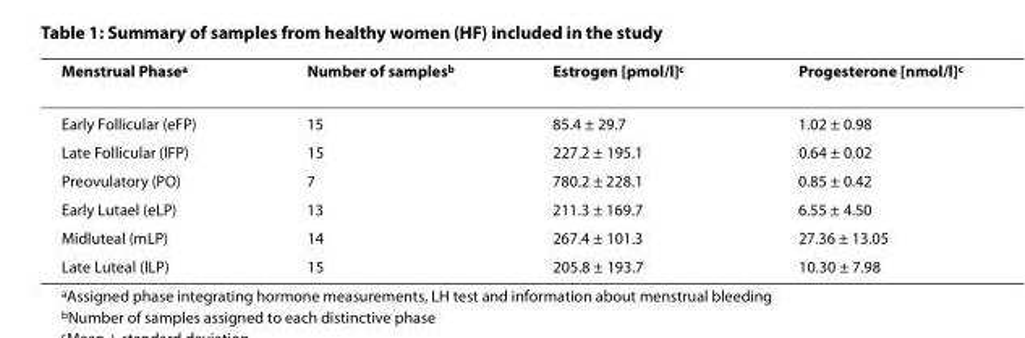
<table><thead><tr><td>Menstrual Phase<sup>a</sup></td><td>Number of samples<sup>b</sup></td><td>Estrogen [pmol/l]<sup>c</sup></td><td>Progesterone [nmol/l]<sup>c</sup></td></tr></thead><tbody><tr><td>Early Follicular (eFP)</td><td>15</td><td>85.4 ± 29.7</td><td>1.02 ± 0.98</td></tr><tr><td>Late Follicular (lFP)</td><td>15</td><td>227.2 ± 195.1</td><td>0.64 ± 0.02</td></tr><tr><td>Preovulatory (PO)</td><td>7</td><td>780.2 ± 228.1</td><td>0.85 ± 0.42</td></tr><tr><td>Early Lutael (eLP)</td><td>13</td><td>211.3 ± 169.7</td><td>6.55 ± 4.50</td></tr><tr><td>Midluteal (mLP)</td><td>14</td><td>267.4 ± 101.3</td><td>27.36 ± 13.05</td></tr><tr><td>Late Luteal (lLP)</td><td>15</td><td>205.8 ± 193.7</td><td>10.30 ± 7.98</td></tr></tbody></table>